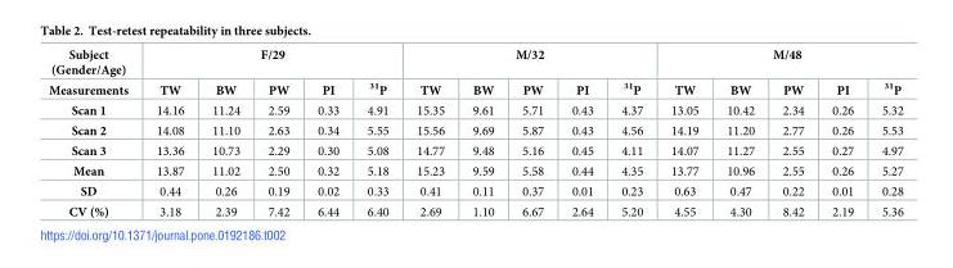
<table><thead><tr><td rowspan="2">Subject (Gender/Age) Measurements</td><td colspan="5">F/29</td><td colspan="5">M/32</td><td colspan="5">M/48</td></tr><tr><td>TW</td><td>BW</td><td>PW</td><td>PI</td><td><sup>31</sup>P</td><td>TW</td><td>BW</td><td>PW</td><td>PI</td><td><sup>31</sup>P</td><td>TW</td><td>BW</td><td>PW</td><td>PI</td><td><sup>31</sup>P</td></tr></thead><tbody><tr><td>Scan 1</td><td>14.16</td><td>11.24</td><td>2.59</td><td>0.33</td><td>4.91</td><td>15.35</td><td>9.61</td><td>5.71</td><td>0.43</td><td>4.37</td><td>13.05</td><td>10.42</td><td>2.34</td><td>0.26</td><td>5.32</td></tr><tr><td>Scan 2</td><td>14.08</td><td>11.10</td><td>2.63</td><td>0.34</td><td>5.55</td><td>15.56</td><td>9.69</td><td>5.87</td><td>0.43</td><td>4.56</td><td>14.19</td><td>11.20</td><td>2.77</td><td>0.26</td><td>5.53</td></tr><tr><td>Scan 3</td><td>13.36</td><td>10.73</td><td>2.29</td><td>0.30</td><td>5.08</td><td>14.77</td><td>9.48</td><td>5.16</td><td>0.45</td><td>4.11</td><td>14.07</td><td>11.27</td><td>2.55</td><td>0.27</td><td>4.97</td></tr><tr><td>Mean</td><td>13.87</td><td>11.02</td><td>2.50</td><td>0.32</td><td>5.18</td><td>15.23</td><td>9.59</td><td>5.58</td><td>0.44</td><td>4.35</td><td>13.77</td><td>10.96</td><td>2.55</td><td>0.26</td><td>5.27</td></tr><tr><td>SD</td><td>0.44</td><td>0.26</td><td>0.19</td><td>0.02</td><td>0.33</td><td>0.41</td><td>0.11</td><td>0.37</td><td>0.01</td><td>0.23</td><td>0.63</td><td>0.47</td><td>0.22</td><td>0.01</td><td>0.28</td></tr><tr><td>CV (%)</td><td>3.18</td><td>2.39</td><td>7.42</td><td>6.44</td><td>6.40</td><td>2.69</td><td>1.10</td><td>6.67</td><td>2.64</td><td>5.20</td><td>4.55</td><td>4.30</td><td>8.42</td><td>2.19</td><td>5.36</td></tr></tbody></table>